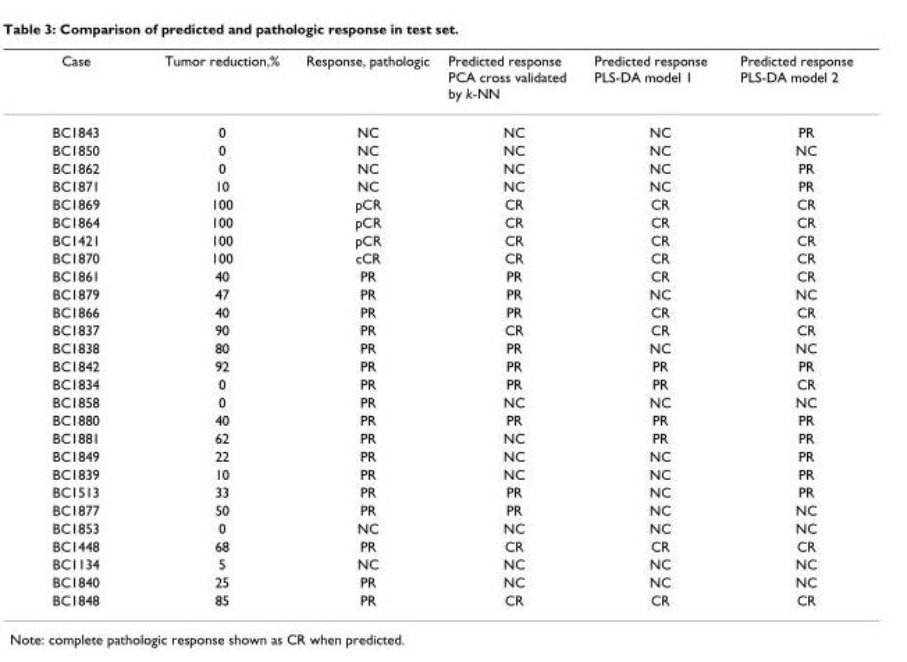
<table><thead><tr><td>Case</td><td>Tumor reduction,%</td><td>Response, pathologic</td><td>Predicted response PCA cross validated by k-NN</td><td>Predicted response PLS-DA model 1</td><td>Predicted response PLS-DA model 2</td></tr></thead><tbody><tr><td>BC1843</td><td>0</td><td>NC</td><td>NC</td><td>NC</td><td>PR</td></tr><tr><td>BC1850</td><td>0</td><td>NC</td><td>NC</td><td>NC</td><td>NC</td></tr><tr><td>BC1862</td><td>0</td><td>NC</td><td>NC</td><td>NC</td><td>PR</td></tr><tr><td>BC1871</td><td>10</td><td>NC</td><td>NC</td><td>NC</td><td>PR</td></tr><tr><td>BC1869</td><td>100</td><td>pCR</td><td>CR</td><td>CR</td><td>CR</td></tr><tr><td>BC1864</td><td>100</td><td>pCR</td><td>CR</td><td>CR</td><td>CR</td></tr><tr><td>BC1421</td><td>100</td><td>pCR</td><td>CR</td><td>CR</td><td>CR</td></tr><tr><td>BC1870</td><td>100</td><td>cCR</td><td>CR</td><td>CR</td><td>CR</td></tr><tr><td>BC1861</td><td>40</td><td>PR</td><td>PR</td><td>CR</td><td>CR</td></tr><tr><td>BC1879</td><td>47</td><td>PR</td><td>PR</td><td>NC</td><td>NC</td></tr><tr><td>BC1866</td><td>40</td><td>PR</td><td>PR</td><td>CR</td><td>CR</td></tr><tr><td>BC1837</td><td>90</td><td>PR</td><td>CR</td><td>CR</td><td>CR</td></tr><tr><td>BC1838</td><td>80</td><td>PR</td><td>PR</td><td>NC</td><td>NC</td></tr><tr><td>BC1842</td><td>92</td><td>PR</td><td>PR</td><td>PR</td><td>PR</td></tr><tr><td>BC1834</td><td>0</td><td>PR</td><td>PR</td><td>PR</td><td>CR</td></tr><tr><td>BC1858</td><td>0</td><td>PR</td><td>NC</td><td>NC</td><td>NC</td></tr><tr><td>BC1880</td><td>40</td><td>PR</td><td>PR</td><td>PR</td><td>PR</td></tr><tr><td>BC1881</td><td>62</td><td>PR</td><td>NC</td><td>PR</td><td>PR</td></tr><tr><td>BC1849</td><td>22</td><td>PR</td><td>NC</td><td>NC</td><td>PR</td></tr><tr><td>BC1839</td><td>10</td><td>PR</td><td>NC</td><td>NC</td><td>PR</td></tr><tr><td>BC1513</td><td>33</td><td>PR</td><td>PR</td><td>NC</td><td>PR</td></tr><tr><td>BC1877</td><td>50</td><td>PR</td><td>PR</td><td>NC</td><td>NC</td></tr><tr><td>BC1853</td><td>0</td><td>NC</td><td>NC</td><td>NC</td><td>NC</td></tr><tr><td>BC1448</td><td>68</td><td>PR</td><td>CR</td><td>CR</td><td>CR</td></tr><tr><td>BC1134</td><td>5</td><td>NC</td><td>NC</td><td>NC</td><td>NC</td></tr><tr><td>BC1840</td><td>25</td><td>PR</td><td>NC</td><td>NC</td><td>NC</td></tr><tr><td>BC1848</td><td>85</td><td>PR</td><td>CR</td><td>CR</td><td>CR</td></tr></tbody></table>